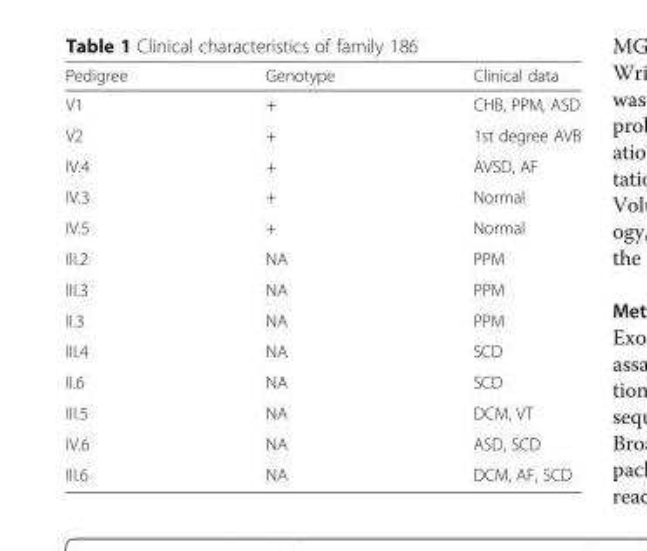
<table><thead><tr><td>Pedigree</td><td>Genotype</td><td>Clinical data</td></tr></thead><tbody><tr><td>V1</td><td>+</td><td>CHB, PPM, ASD</td></tr><tr><td>V2</td><td>+</td><td>1st degree AVB</td></tr><tr><td>IV.4</td><td>+</td><td>AVSD, AF</td></tr><tr><td>IV.3</td><td>+</td><td>Normal</td></tr><tr><td>IV.5</td><td>+</td><td>Normal</td></tr><tr><td>III.2</td><td>NA</td><td>PPM</td></tr><tr><td>III.3</td><td>NA</td><td>PPM</td></tr><tr><td>II.3</td><td>NA</td><td>PPM</td></tr><tr><td>III.4</td><td>NA</td><td>SCD</td></tr><tr><td>II.6</td><td>NA</td><td>SCD</td></tr><tr><td>III.5</td><td>NA</td><td>DCM, VT</td></tr><tr><td>IV.6</td><td>NA</td><td>ASD, SCD</td></tr><tr><td>III.6</td><td>NA</td><td>DCM, AF, SCD</td></tr></tbody></table>